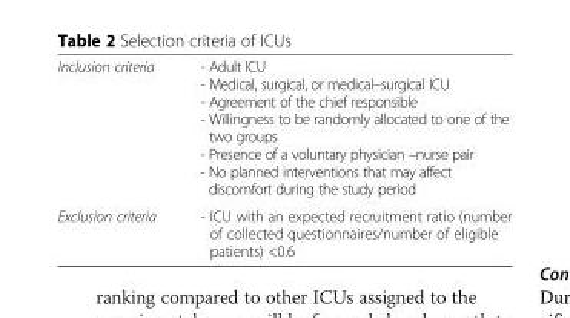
<table><tbody><tr><td>Inclusion criteria</td><td>- Adult ICU - Medical, surgical, or medical–surgical ICU - Agreement of the chief responsible - Willingness to be randomly allocated to one of the two groups - Presence of a voluntary physician –nurse pair - No planned interventions that may affect discomfort during the study period</td></tr><tr><td>Exclusion criteria</td><td>- ICU with an expected recruitment ratio (number of collected questionnaires/number of eligible patients) &lt;0.6</td></tr></tbody></table>